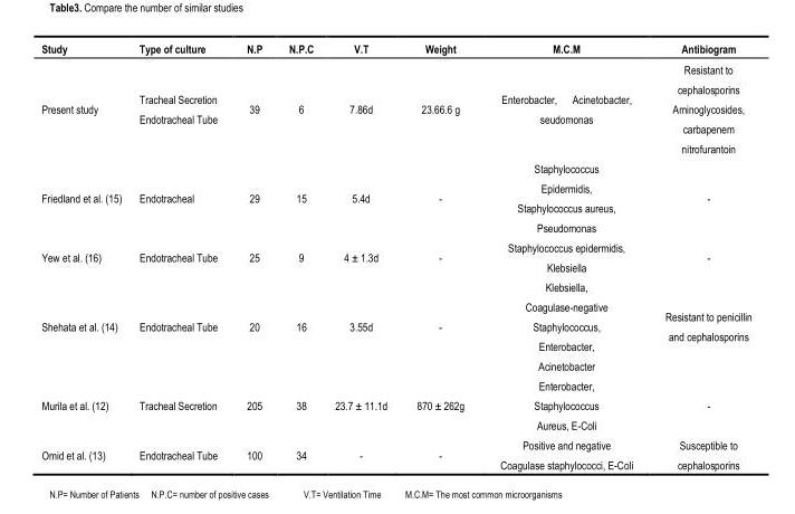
<table><thead><tr><td>Study</td><td>Type of culture</td><td>N.P</td><td>N.P.C</td><td>V.T</td><td>Weight</td><td>M.C.M</td><td>Antibiogram</td></tr></thead><tbody><tr><td>Present study</td><td>Tracheal Secretion Endotracheal Tube</td><td>39</td><td>6</td><td>7.86d</td><td>23.66.6 g</td><td>Enterobacter, Acinetobacter, seudomonas</td><td>Resistant to cephalosporins Aminoglycosides, carbapenem nitrofurantoin</td></tr><tr><td>Friedland et al. (15)</td><td>Endotracheal</td><td>29</td><td>15</td><td>5.4d</td><td>-</td><td>Staphylococcus Epidermidis, Staphylococcus aureus, Pseudomonas</td><td>-</td></tr><tr><td>Yew et al. (16)</td><td>Endotracheal Tube</td><td>25</td><td>9</td><td>4 ± 1.3d</td><td>-</td><td>Staphylococcus epidermidis, Klebsiella</td><td>-</td></tr><tr><td>Shehata et al. (14)</td><td>Endotracheal Tube</td><td>20</td><td>16</td><td>3.55d</td><td>-</td><td>Klebsiella, Coagulase-negative Staphylococcus, Enterobacter, Acinetobacter</td><td>Resistant to penicillin and cephalosporins</td></tr><tr><td>Murila et al. (12)</td><td>Tracheal Secretion</td><td>205</td><td>38</td><td>23.7 ± 11.1d</td><td>870 ± 262g</td><td>Enterobacter, Staphylococcus Aureus, E-Coli</td><td>-</td></tr><tr><td>Omid et al. (13)</td><td>Endotracheal Tube</td><td>100</td><td>34</td><td>-</td><td>-</td><td>Positive and negative Coagulase staphylococci, E-Coli</td><td>Susceptible to cephalosporins</td></tr></tbody></table>